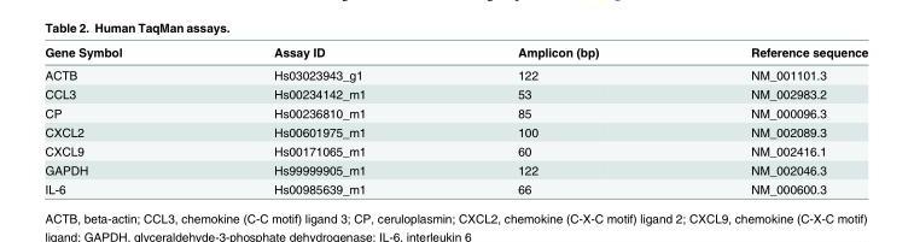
<table><thead><tr><td>Gene Symbol</td><td>Assay ID</td><td>Amplicon (bp)</td><td>Reference sequence</td></tr></thead><tbody><tr><td>ACTB</td><td>Hs03023943_g1</td><td>122</td><td>NM_001101.3</td></tr><tr><td>CCL3</td><td>Hs00234142_m1</td><td>53</td><td>NM_002983.2</td></tr><tr><td>CP</td><td>Hs00236810_m1</td><td>85</td><td>NM_000096.3</td></tr><tr><td>CXCL2</td><td>Hs00601975_m1</td><td>100</td><td>NM_002089.3</td></tr><tr><td>CXCL9</td><td>Hs00171065_m1</td><td>60</td><td>NM_002416.1</td></tr><tr><td>GAPDH</td><td>Hs99999905_m1</td><td>122</td><td>NM_002046.3</td></tr><tr><td>IL-6</td><td>Hs00985639_m1</td><td>66</td><td>NM_000600.3</td></tr></tbody></table>